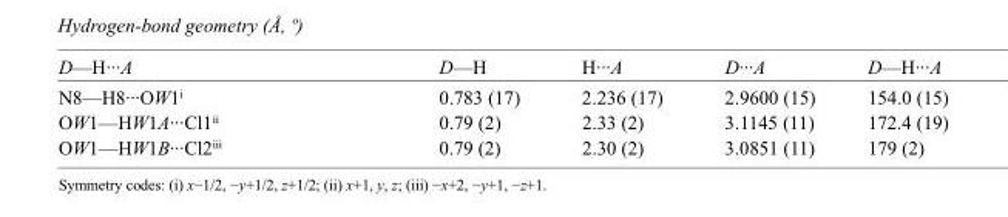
<table><tbody><tr><td>D—H···A</td><td>D—H</td><td>H···A</td><td>D···A</td><td>D—H···A</td></tr><tr><td>N8—H8···OW1<sup>i</sup></td><td>0.783 (17)</td><td>2.236 (17)</td><td>2.9600 (15)</td><td>154.0 (15)</td></tr><tr><td>OW1—HW1A···Cl1<sup>ii</sup></td><td>0.79 (2)</td><td>2.33 (2)</td><td>3.1145 (11)</td><td>172.4 (19)</td></tr><tr><td>OW1—HW1B···Cl2<sup>iii</sup></td><td>0.79 (2)</td><td>2.30 (2)</td><td>3.0851 (11)</td><td>179 (2)</td></tr></tbody></table>